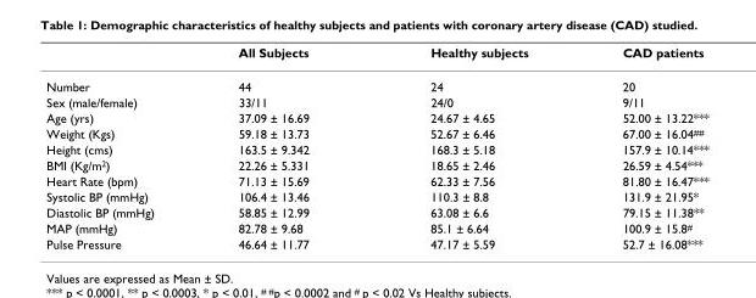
<table><thead><tr><td></td><td>All Subjects</td><td>Healthy subjects</td><td>CAD patients</td></tr></thead><tbody><tr><td>Number</td><td>44</td><td>24</td><td>20</td></tr><tr><td>Sex (male/female)</td><td>33/11</td><td>24/0</td><td>9/11</td></tr><tr><td>Age (yrs)</td><td>37.09 ± 16.69</td><td>24.67 ± 4.65</td><td>52.00 ± 13.22***</td></tr><tr><td>Weight (Kgs)</td><td>59.18 ± 13.73</td><td>52.67 ± 6.46</td><td>67.00 ± 16.04<sup>##</sup></td></tr><tr><td>Height (cms)</td><td>163.5 ± 9.342</td><td>168.3 ± 5.18</td><td>157.9 ± 10.14***</td></tr><tr><td>BMI (Kg/m<sup>2</sup>)</td><td>22.26 ± 5.331</td><td>18.65 ± 2.46</td><td>26.59 ± 4.54***</td></tr><tr><td>Heart Rate (bpm)</td><td>71.13 ± 15.69</td><td>62.33 ± 7.56</td><td>81.80 ± 16.47***</td></tr><tr><td>Systolic BP (mmHg)</td><td>106.4 ± 13.46</td><td>110.3 ± 8.8</td><td>131.9 ± 21.95*</td></tr><tr><td>Diastolic BP (mmHg)</td><td>58.85 ± 12.99</td><td>63.08 ± 6.6</td><td>79.15 ± 11.38**</td></tr><tr><td>MAP (mmHg)</td><td>82.78 ± 9.68</td><td>85.1 ± 6.64</td><td>100.9 ± 15.8<sup>#</sup></td></tr><tr><td>Pulse Pressure</td><td>46.64 ± 11.77</td><td>47.17 ± 5.59</td><td>52.7 ± 16.08***</td></tr></tbody></table>